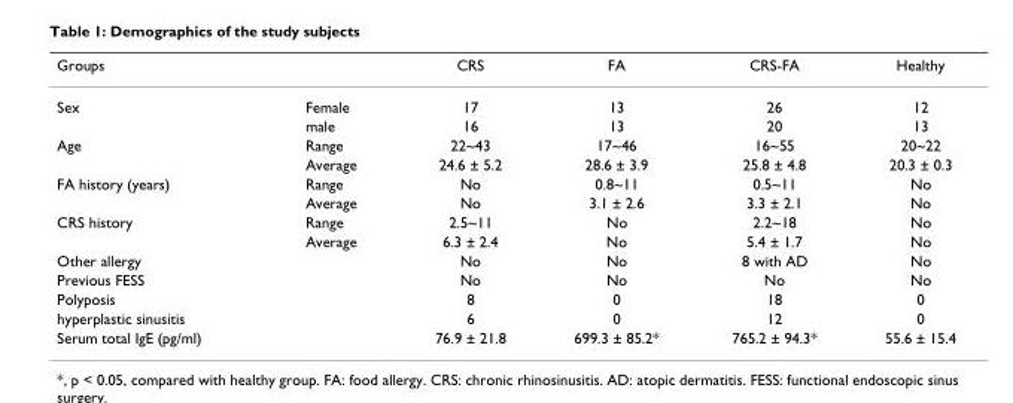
<table><thead><tr><td>Groups</td><td></td><td>CRS</td><td>FA</td><td>CRS-FA</td><td>Healthy</td></tr></thead><tbody><tr><td rowspan="2">Sex</td><td>Female</td><td>17</td><td>13</td><td>26</td><td>12</td></tr><tr><td>male</td><td>16</td><td>13</td><td>20</td><td>13</td></tr><tr><td rowspan="2">Age</td><td>Range</td><td>22~43</td><td>17~46</td><td>16~55</td><td>20~22</td></tr><tr><td>Average</td><td>24.6 ± 5.2</td><td>28.6 ± 3.9</td><td>25.8 ± 4.8</td><td>20.3 ± 0.3</td></tr><tr><td rowspan="2">FA history (years)</td><td>Range</td><td>No</td><td>0.8~11</td><td>0.5~11</td><td>No</td></tr><tr><td>Average</td><td>No</td><td>3.1 ± 2.6</td><td>3.3 ± 2.1</td><td>No</td></tr><tr><td rowspan="2">CRS history</td><td>Range</td><td>2.5~11</td><td>No</td><td>2.2~18</td><td>No</td></tr><tr><td>Average</td><td>6.3 ± 2.4</td><td>No</td><td>5.4 ± 1.7</td><td>No</td></tr><tr><td>Other allergy</td><td></td><td>No</td><td>No</td><td>8 with AD</td><td>No</td></tr><tr><td>Previous FESS</td><td></td><td>No</td><td>No</td><td>No</td><td>No</td></tr><tr><td>Polyposis</td><td></td><td>8</td><td>0</td><td>18</td><td>0</td></tr><tr><td>hyperplastic sinusitis</td><td></td><td>6</td><td>0</td><td>12</td><td>0</td></tr><tr><td>Serum total IgE (pg/ml)</td><td></td><td>76.9 ± 21.8</td><td>699.3 ± 85.2*</td><td>765.2 ± 94.3*</td><td>55.6 ± 15.4</td></tr></tbody></table>